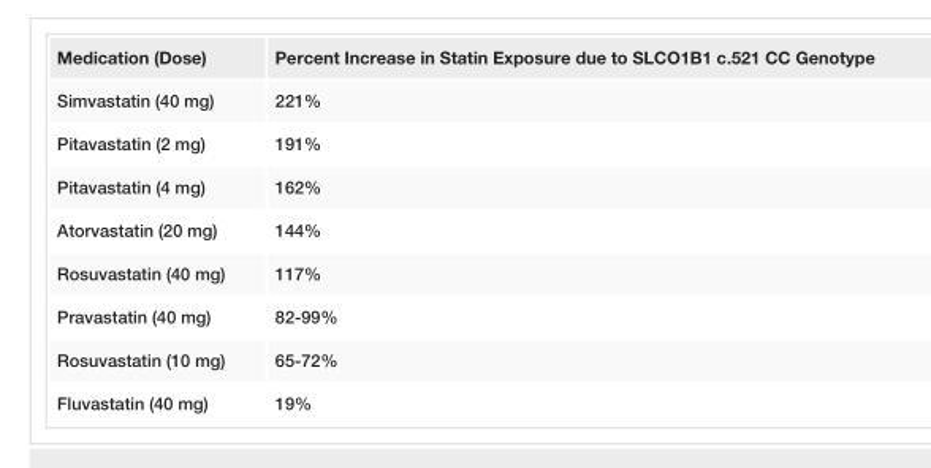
<table><tbody><tr><td>Medication (Dose)</td><td>Percent Increase in Statin Exposure due to SLCO1B1 c.521 CC Genotype</td></tr><tr><td>Simvastatin (40 mg)</td><td>221%</td></tr><tr><td>Pitavastatin (2 mg)</td><td>191%</td></tr><tr><td>Pitavastatin (4 mg)</td><td>162%</td></tr><tr><td>Atorvastatin (20 mg)</td><td>144%</td></tr><tr><td>Rosuvastatin (40 mg)</td><td>117%</td></tr><tr><td>Pravastatin (40 mg)</td><td>82-99%</td></tr><tr><td>Rosuvastatin (10 mg)</td><td>65-72%</td></tr><tr><td>Fluvastatin (40 mg)</td><td>19%</td></tr></tbody></table>